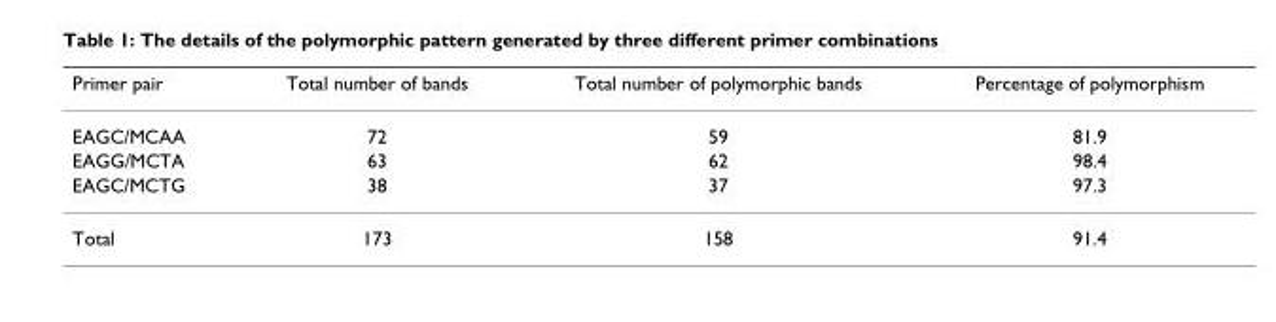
<table><thead><tr><td>Primer pair</td><td>Total number of bands</td><td>Total number of polymorphic bands</td><td>Percentage of polymorphism</td></tr></thead><tbody><tr><td>EAGC/MCAA</td><td>72</td><td>59</td><td>81.9</td></tr><tr><td>EAGG/MCTA</td><td>63</td><td>62</td><td>98.4</td></tr><tr><td>EAGC/MCTG</td><td>38</td><td>37</td><td>97.3</td></tr><tr><td>Total</td><td>173</td><td>158</td><td>91.4</td></tr></tbody></table>